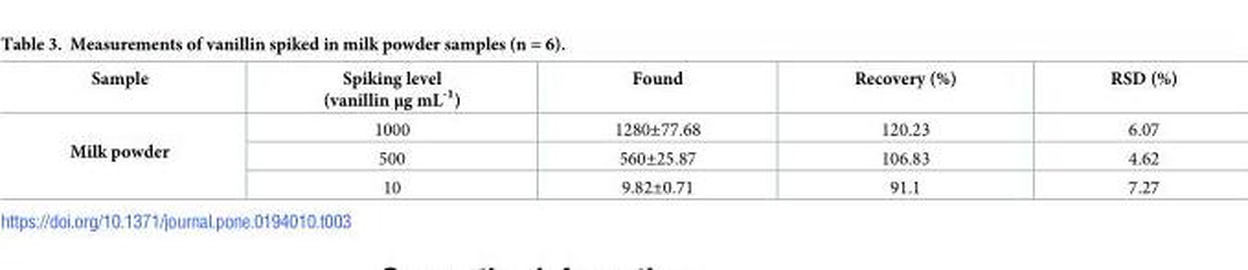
<table><thead><tr><td>Sample</td><td>Spiking level (vanillin μg mL<sup>-1</sup>)</td><td>Found</td><td>Recovery (%)</td><td>RSD (%)</td></tr></thead><tbody><tr><td rowspan="3">Milk powder</td><td>1000</td><td>1280±77.68</td><td>120.23</td><td>6.07</td></tr><tr><td>500</td><td>560±25.87</td><td>106.83</td><td>4.62</td></tr><tr><td>10</td><td>9.82±0.71</td><td>91.1</td><td>7.27</td></tr></tbody></table>